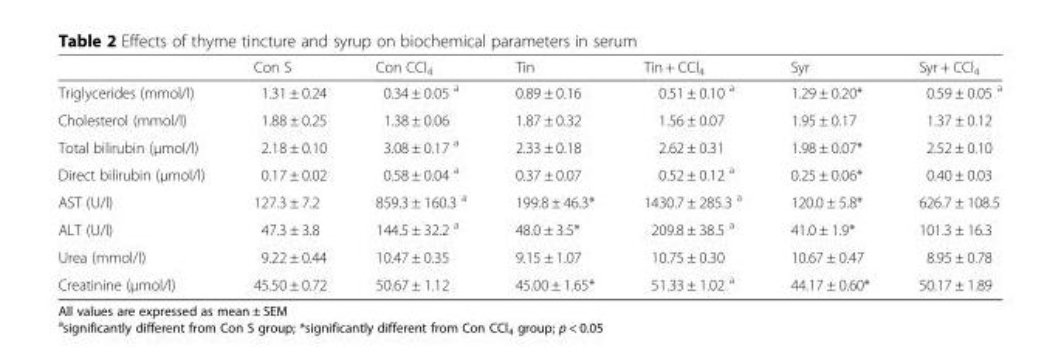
<table><thead><tr><td></td><td>Con S</td><td>Con CCl<sub>4</sub></td><td>Tin</td><td>Tin + CCl<sub>4</sub></td><td>Syr</td><td>Syr + CCl<sub>4</sub></td></tr></thead><tbody><tr><td>Triglycerides (mmol/l)</td><td>1.31 ± 0.24</td><td>0.34 ± 0.05 <sup>a</sup></td><td>0.89 ± 0.16</td><td>0.51 ± 0.10 <sup>a</sup></td><td>1.29 ± 0.20*</td><td>0.59 ± 0.05 <sup>a</sup></td></tr><tr><td>Cholesterol (mmol/l)</td><td>1.88 ± 0.25</td><td>1.38 ± 0.06</td><td>1.87 ± 0.32</td><td>1.56 ± 0.07</td><td>1.95 ± 0.17</td><td>1.37 ± 0.12</td></tr><tr><td>Total bilirubin (μmol/l)</td><td>2.18 ± 0.10</td><td>3.08 ± 0.17 <sup>a</sup></td><td>2.33 ± 0.18</td><td>2.62 ± 0.31</td><td>1.98 ± 0.07*</td><td>2.52 ± 0.10</td></tr><tr><td>Direct bilirubin (μmol/l)</td><td>0.17 ± 0.02</td><td>0.58 ± 0.04 <sup>a</sup></td><td>0.37 ± 0.07</td><td>0.52 ± 0.12 <sup>a</sup></td><td>0.25 ± 0.06*</td><td>0.40 ± 0.03</td></tr><tr><td>AST (U/l)</td><td>127.3 ± 7.2</td><td>859.3 ± 160.3 <sup>a</sup></td><td>199.8 ± 46.3*</td><td>1430.7 ± 285.3 <sup>a</sup></td><td>120.0 ± 5.8*</td><td>626.7 ± 108.5</td></tr><tr><td>ALT (U/l)</td><td>47.3 ± 3.8</td><td>144.5 ± 32.2 <sup>a</sup></td><td>48.0 ± 3.5*</td><td>209.8 ± 38.5 <sup>a</sup></td><td>41.0 ± 1.9*</td><td>101.3 ± 16.3</td></tr><tr><td>Urea (mmol/l)</td><td>9.22 ± 0.44</td><td>10.47 ± 0.35</td><td>9.15 ± 1.07</td><td>10.75 ± 0.30</td><td>10.67 ± 0.47</td><td>8.95 ± 0.78</td></tr><tr><td>Creatinine (μmol/l)</td><td>45.50 ± 0.72</td><td>50.67 ± 1.12</td><td>45.00 ± 1.65*</td><td>51.33 ± 1.02 <sup>a</sup></td><td>44.17 ± 0.60*</td><td>50.17 ± 1.89</td></tr></tbody></table>